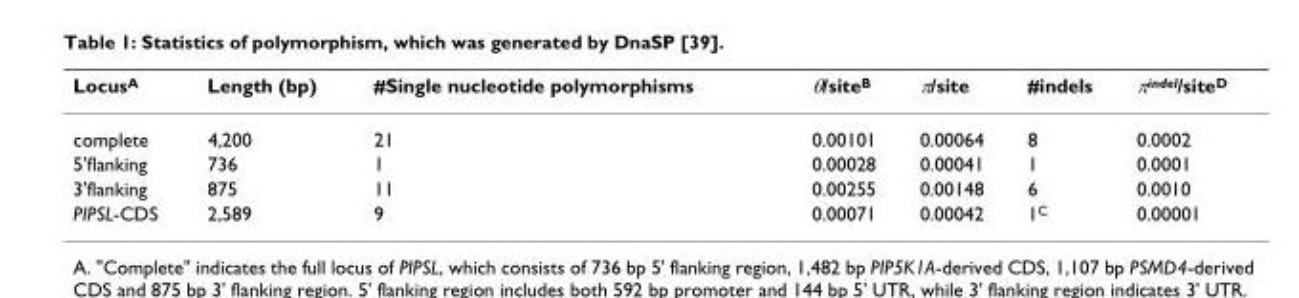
<table><thead><tr><td>Locus<sup>A</sup></td><td>Length (bp)</td><td>#Single nucleotide polymorphisms</td><td>θ/site<sup>B</sup></td><td>π/site</td><td>#indels</td><td>π<sup>indel</sup>/site<sup>D</sup></td></tr></thead><tbody><tr><td>complete</td><td>4,200</td><td>21</td><td>0.00101</td><td>0.00064</td><td>8</td><td>0.0002</td></tr><tr><td>5&#x27;flanking</td><td>736</td><td>1</td><td>0.00028</td><td>0.00041</td><td>1</td><td>0.0001</td></tr><tr><td>3&#x27;flanking</td><td>875</td><td>11</td><td>0.00255</td><td>0.00148</td><td>6</td><td>0.0010</td></tr><tr><td>PIPSL-CDS</td><td>2,589</td><td>9</td><td>0.00071</td><td>0.00042</td><td>1<sup>C</sup></td><td>0.00001</td></tr></tbody></table>